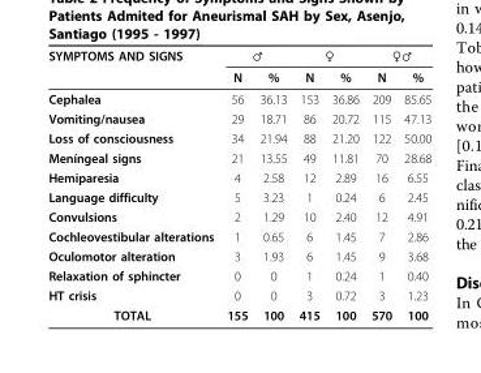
<table><thead><tr><td rowspan="2">SYMPTOMS AND SIGNS</td><td colspan="2">♂</td><td colspan="2">♀</td><td colspan="2">♀♂</td></tr><tr><td>N</td><td>%</td><td>N</td><td>%</td><td>N</td><td>%</td></tr></thead><tbody><tr><td>Cephalea</td><td>56</td><td>36.13</td><td>153</td><td>36.86</td><td>209</td><td>85.65</td></tr><tr><td>Vomiting/nausea</td><td>29</td><td>18.71</td><td>86</td><td>20.72</td><td>115</td><td>47.13</td></tr><tr><td>Loss of consciousness</td><td>34</td><td>21.94</td><td>88</td><td>21.20</td><td>122</td><td>50.00</td></tr><tr><td>Meníngeal signs</td><td>21</td><td>13.55</td><td>49</td><td>11.81</td><td>70</td><td>28.68</td></tr><tr><td>Hemiparesia</td><td>4</td><td>2.58</td><td>12</td><td>2.89</td><td>16</td><td>6.55</td></tr><tr><td>Language difficulty</td><td>5</td><td>3.23</td><td>1</td><td>0.24</td><td>6</td><td>2.45</td></tr><tr><td>Convulsions</td><td>2</td><td>1.29</td><td>10</td><td>2.40</td><td>12</td><td>4.91</td></tr><tr><td>Cochleovestibular alterations</td><td>1</td><td>0.65</td><td>6</td><td>1.45</td><td>7</td><td>2.86</td></tr><tr><td>Oculomotor alteration</td><td>3</td><td>1.93</td><td>6</td><td>1.45</td><td>9</td><td>3.68</td></tr><tr><td>Relaxation of sphincter</td><td>0</td><td>0</td><td>1</td><td>0.24</td><td>1</td><td>0.40</td></tr><tr><td>HT crisis</td><td>0</td><td>0</td><td>3</td><td>0.72</td><td>3</td><td>1.23</td></tr><tr><td>TOTAL</td><td>155</td><td>100</td><td>415</td><td>100</td><td>570</td><td>100</td></tr></tbody></table>